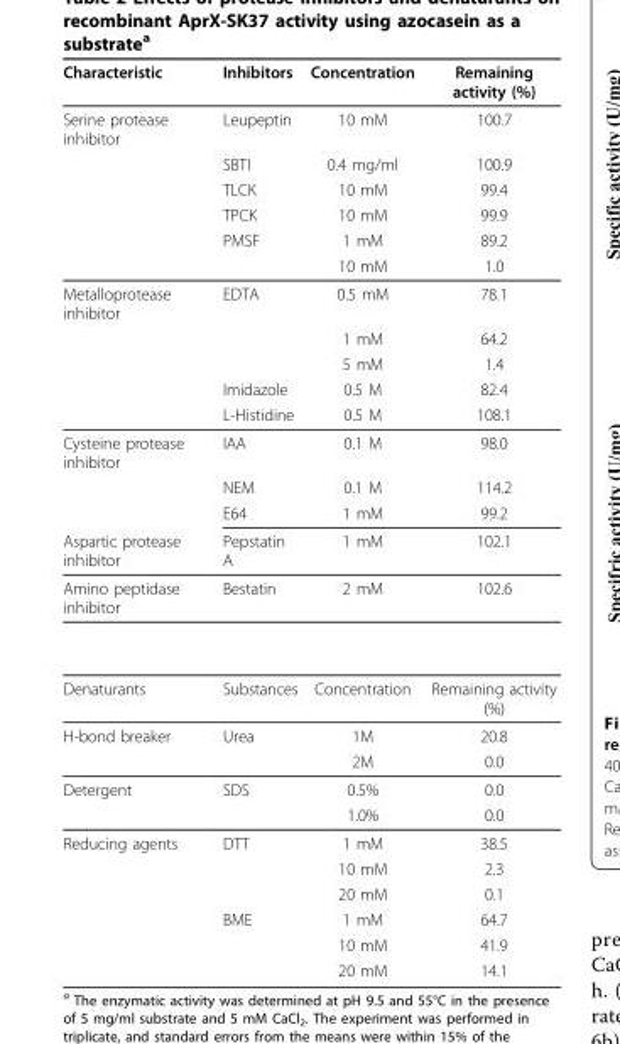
<table><thead><tr><td>Characteristic</td><td>Inhibitors</td><td>Concentration</td><td>Remaining activity (%)</td></tr></thead><tbody><tr><td rowspan="6">Serine protease inhibitor</td><td>Leupeptin</td><td>10 mM</td><td>100.7</td></tr><tr><td>SBTI</td><td>0.4 mg/ml</td><td>100.9</td></tr><tr><td>TLCK</td><td>10 mM</td><td>99.4</td></tr><tr><td>TPCK</td><td>10 mM</td><td>99.9</td></tr><tr><td>PMSF</td><td>1 mM</td><td>89.2</td></tr><tr><td></td><td>10 mM</td><td>1.0</td></tr><tr><td rowspan="5">Metalloprotease inhibitor</td><td>EDTA</td><td>0.5 mM</td><td>78.1</td></tr><tr><td></td><td>1 mM</td><td>64.2</td></tr><tr><td></td><td>5 mM</td><td>1.4</td></tr><tr><td>Imidazole</td><td>0.5 M</td><td>82.4</td></tr><tr><td>L-Histidine</td><td>0.5 M</td><td>108.1</td></tr><tr><td rowspan="3">Cysteine protease inhibitor</td><td>IAA</td><td>0.1 M</td><td>98.0</td></tr><tr><td>NEM</td><td>0.1 M</td><td>114.2</td></tr><tr><td>E64</td><td>1 mM</td><td>99.2</td></tr><tr><td>Aspartic protease inhibitor</td><td>Pepstatin A</td><td>1 mM</td><td>102.1</td></tr><tr><td>Amino peptidase inhibitor</td><td>Bestatin</td><td>2 mM</td><td>102.6</td></tr><tr><td>Denaturants</td><td>Substances</td><td>Concentration</td><td>Remaining activity (%)</td></tr><tr><td rowspan="2">H-bond breaker</td><td>Urea</td><td>1M</td><td>20.8</td></tr><tr><td></td><td>2M</td><td>0.0</td></tr><tr><td rowspan="2">Detergent</td><td>SDS</td><td>0.5%</td><td>0.0</td></tr><tr><td></td><td>1.0%</td><td>0.0</td></tr><tr><td rowspan="6">Reducing agents</td><td>DTT</td><td>1 mM</td><td>38.5</td></tr><tr><td></td><td>10 mM</td><td>2.3</td></tr><tr><td></td><td>20 mM</td><td>0.1</td></tr><tr><td>BME</td><td>1 mM</td><td>64.7</td></tr><tr><td></td><td>10 mM</td><td>41.9</td></tr><tr><td></td><td>20 mM</td><td>14.1</td></tr></tbody></table>